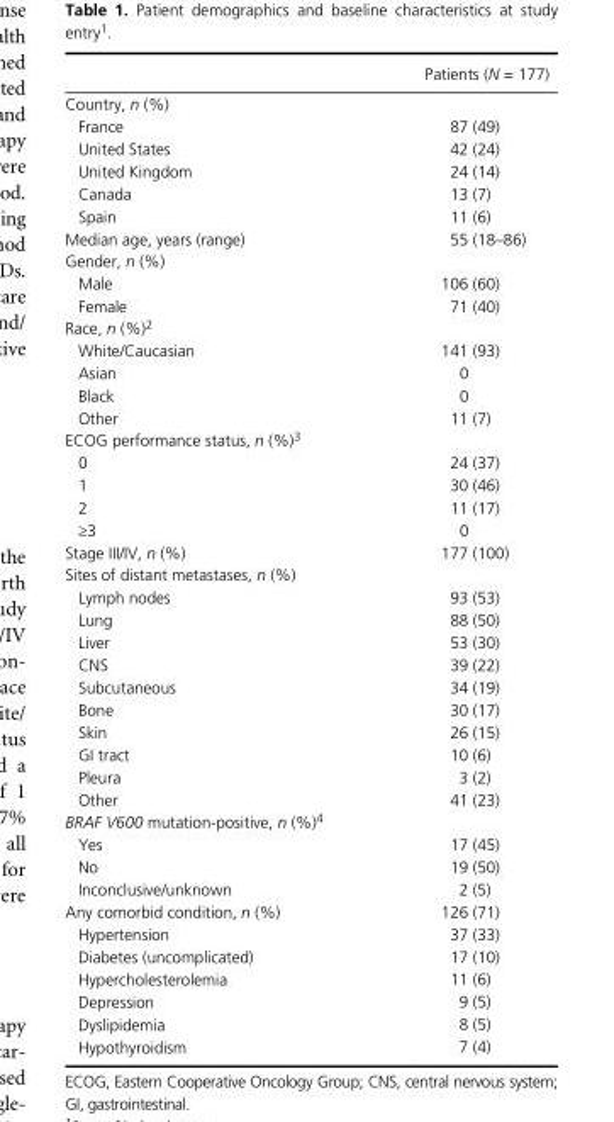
<table><thead><tr><td></td><td>Patients (N = 177)</td></tr></thead><tbody><tr><td colspan="2">Country, n (%)</td></tr><tr><td>France</td><td>87 (49)</td></tr><tr><td>United States</td><td>42 (24)</td></tr><tr><td>United Kingdom</td><td>24 (14)</td></tr><tr><td>Canada</td><td>13 (7)</td></tr><tr><td>Spain</td><td>11 (6)</td></tr><tr><td>Median age, years (range)</td><td>55 (18–86)</td></tr><tr><td colspan="2">Gender, n (%)</td></tr><tr><td>Male</td><td>106 (60)</td></tr><tr><td>Female</td><td>71 (40)</td></tr><tr><td colspan="2">Race, n (%)2</td></tr><tr><td>White/Caucasian</td><td>141 (93)</td></tr><tr><td>Asian</td><td>0</td></tr><tr><td>Black</td><td>0</td></tr><tr><td>Other</td><td>11 (7)</td></tr><tr><td colspan="2">ECOG performance status, n (%)3</td></tr><tr><td>0</td><td>24 (37)</td></tr><tr><td>1</td><td>30 (46)</td></tr><tr><td>2</td><td>11 (17)</td></tr><tr><td>≥3</td><td>0</td></tr><tr><td>Stage III/IV, n (%)</td><td>177 (100)</td></tr><tr><td colspan="2">Sites of distant metastases, n (%)</td></tr><tr><td>Lymph nodes</td><td>93 (53)</td></tr><tr><td>Lung</td><td>88 (50)</td></tr><tr><td>Liver</td><td>53 (30)</td></tr><tr><td>CNS</td><td>39 (22)</td></tr><tr><td>Subcutaneous</td><td>34 (19)</td></tr><tr><td>Bone</td><td>30 (17)</td></tr><tr><td>Skin</td><td>26 (15)</td></tr><tr><td>GI tract</td><td>10 (6)</td></tr><tr><td>Pleura</td><td>3 (2)</td></tr><tr><td>Other</td><td>41 (23)</td></tr><tr><td colspan="2">BRAF V600 mutation- positive, n (%)4</td></tr><tr><td>Yes</td><td>17 (45)</td></tr><tr><td>No</td><td>19 (50)</td></tr><tr><td>Inconclusive/unknown</td><td>2 (5)</td></tr><tr><td>Any comorbid condition, n (%)</td><td>126 (71)</td></tr><tr><td>Hypertension</td><td>37 (33)</td></tr><tr><td>Diabetes (uncomplicated)</td><td>17 (10)</td></tr><tr><td>Hypercholesterolemia</td><td>11 (6)</td></tr><tr><td>Depression</td><td>9 (5)</td></tr><tr><td>Dyslipidemia</td><td>8 (5)</td></tr><tr><td>Hypothyroidism</td><td>7 (4)</td></tr></tbody></table>